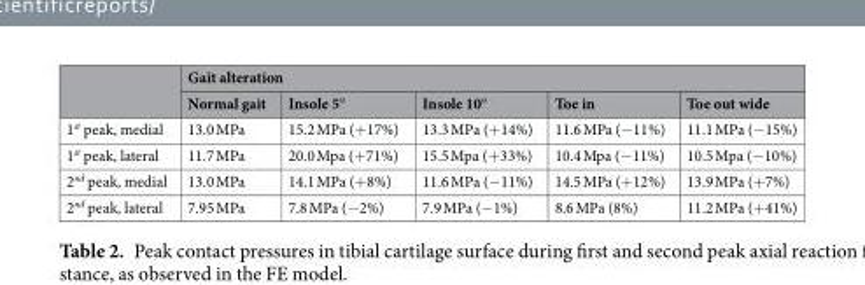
<table><thead><tr><td rowspan="2"></td><td colspan="5">Gait alteration</td></tr><tr><td>Normal gait</td><td>Insole 5°</td><td>Insole 10°</td><td>Toe in</td><td>Toe out wide</td></tr></thead><tbody><tr><td>1<sup>st</sup> peak, medial</td><td>13.0 MPa</td><td>15.2 MPa (+17%)</td><td>13.3 MPa (+14%)</td><td>11.6 MPa (−11%)</td><td>11.1 MPa (−15%)</td></tr><tr><td>1<sup>st</sup> peak, lateral</td><td>11.7 MPa</td><td>20.0 Mpa (+71%)</td><td>15.5 Mpa (+33%)</td><td>10.4 Mpa (−11%)</td><td>10.5 Mpa (−10%)</td></tr><tr><td>2<sup>nd</sup> peak, medial</td><td>13.0 MPa</td><td>14.1 MPa (+8%)</td><td>11.6 MPa (−11%)</td><td>14.5 MPa (+12%)</td><td>13.9 MPa (+7%)</td></tr><tr><td>2<sup>nd</sup> peak, lateral</td><td>7.95 MPa</td><td>7.8 MPa (−2%)</td><td>7.9 MPa (−1%)</td><td>8.6 MPa (8%)</td><td>11.2 MPa (+41%)</td></tr></tbody></table>